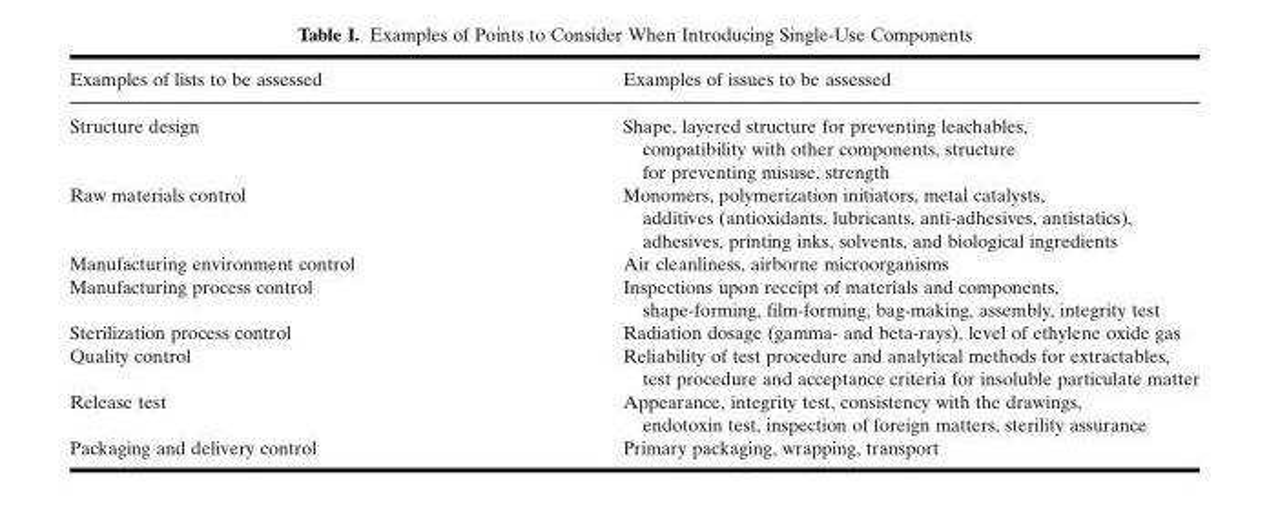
<table><thead><tr><td>Examples of lists to be assessed</td><td>Examples of issues to be assessed</td></tr></thead><tbody><tr><td>Structure design</td><td>Shape, layered structure for preventing leachables, compatibility with other components, structure for preventing misuse, strength</td></tr><tr><td>Raw materials control</td><td>Monomers, polymerization initiators, metal catalysts, additives (antioxidants, lubricants, anti-adhesives, antistatics), adhesives, printing inks, solvents, and biological ingredients</td></tr><tr><td>Manufacturing environment control</td><td>Air cleanliness, airborne microorganisms</td></tr><tr><td>Manufacturing process control</td><td>Inspections upon receipt of materials and components, shape-forming, film-forming, bag-making, assembly, integrity test</td></tr><tr><td>Sterilization process control</td><td>Radiation dosage (gamma- and beta-rays), level of ethylene oxide gas</td></tr><tr><td>Quality control</td><td>Reliability of test procedure and analytical methods for extractables, test procedure and acceptance criteria for insoluble particulate matter</td></tr><tr><td>Release test</td><td>Appearance, integrity test, consistency with the drawings, endotoxin test, inspection of foreign matters, sterility assurance</td></tr><tr><td>Packaging and delivery control</td><td>Primary packaging, wrapping, transport</td></tr></tbody></table>